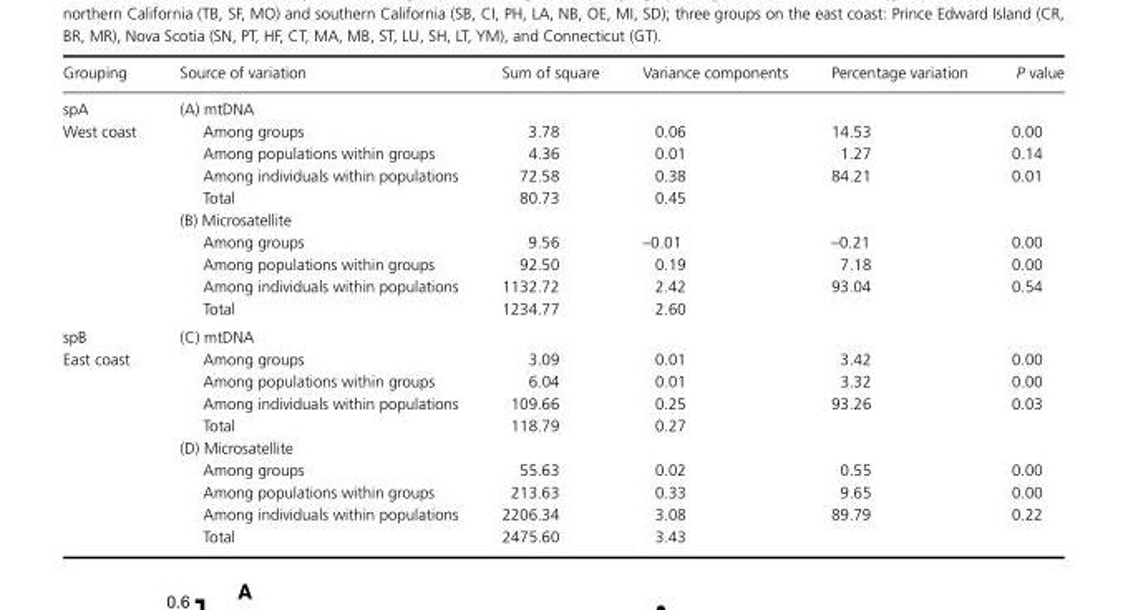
<table><thead><tr><td>Grouping</td><td>Source of variation</td><td>Sum of square</td><td>Variance components</td><td>Percentage variation</td><td>P value</td></tr></thead><tbody><tr><td>spA</td><td>(A) mtDNA</td><td></td><td></td><td></td><td></td></tr><tr><td rowspan="9">West coast</td><td>Among groups</td><td>3.78</td><td>0.06</td><td>14.53</td><td>0.00</td></tr><tr><td>Among populations within groups</td><td>4.36</td><td>0.01</td><td>1.27</td><td>0.14</td></tr><tr><td>Among individuals within populations</td><td>72.58</td><td>0.38</td><td>84.21</td><td>0.01</td></tr><tr><td>Total</td><td>80.73</td><td>0.45</td><td></td><td></td></tr><tr><td>(B) Microsatellite</td><td></td><td></td><td></td><td></td></tr><tr><td>Among groups</td><td>9.56</td><td>–0.01</td><td>–0.21</td><td>0.00</td></tr><tr><td>Among populations within groups</td><td>92.50</td><td>0.19</td><td>7.18</td><td>0.00</td></tr><tr><td>Among individuals within populations</td><td>1132.72</td><td>2.42</td><td>93.04</td><td>0.54</td></tr><tr><td>Total</td><td>1234.77</td><td>2.60</td><td></td><td></td></tr><tr><td>spB</td><td>(C) mtDNA</td><td></td><td></td><td></td><td></td></tr><tr><td rowspan="9">East coast</td><td>Among groups</td><td>3.09</td><td>0.01</td><td>3.42</td><td>0.00</td></tr><tr><td>Among populations within groups</td><td>6.04</td><td>0.01</td><td>3.32</td><td>0.00</td></tr><tr><td>Among individuals within populations</td><td>109.66</td><td>0.25</td><td>93.26</td><td>0.03</td></tr><tr><td>Total</td><td>118.79</td><td>0.27</td><td></td><td></td></tr><tr><td>(D) Microsatellite</td><td></td><td></td><td></td><td></td></tr><tr><td>Among groups</td><td>55.63</td><td>0.02</td><td>0.55</td><td>0.00</td></tr><tr><td>Among populations within groups</td><td>213.63</td><td>0.33</td><td>9.65</td><td>0.00</td></tr><tr><td>Among individuals within populations</td><td>2206.34</td><td>3.08</td><td>89.79</td><td>0.22</td></tr><tr><td>Total</td><td>2475.60</td><td>3.43</td><td></td><td></td></tr></tbody></table>